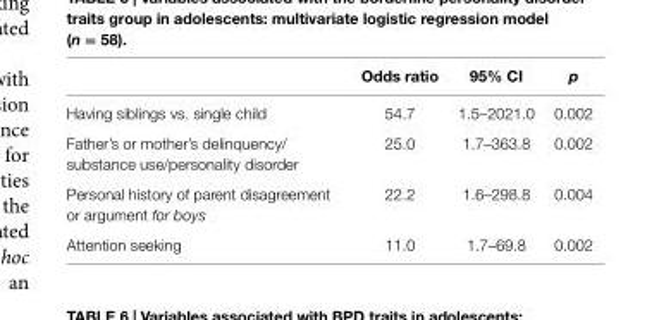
<table><thead><tr><td></td><td>Odds ratio</td><td>95% ci</td><td>p</td></tr></thead><tbody><tr><td>Having siblings vs. single child</td><td>54.7</td><td>1.5–2021.0</td><td>0.002</td></tr><tr><td>Father’s or mother’s delinquency/ substance use/personality disorder</td><td>25.0</td><td>1.7–363.8</td><td>0.002</td></tr><tr><td>Personal history of parent disagreement or argument for boys</td><td>22.2</td><td>1.6–298.8</td><td>0.004</td></tr><tr><td>Attention seeking</td><td>11.0</td><td>1.7–69.8</td><td>0.002</td></tr></tbody></table>